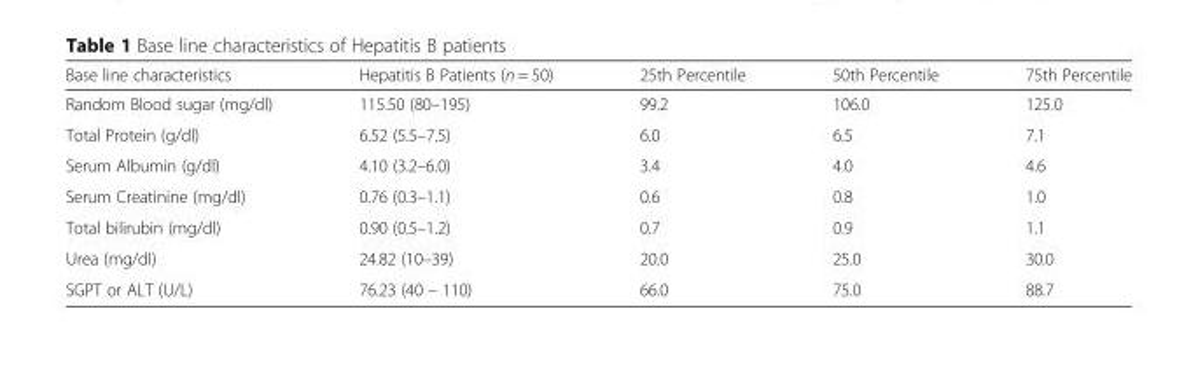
<table><thead><tr><td>Base line characteristics</td><td>Hepatitis B Patients (n = 50)</td><td>25th Percentile</td><td>50th Percentile</td><td>75th Percentile</td></tr></thead><tbody><tr><td>Random Blood sugar (mg/dl)</td><td>115.50 (80–195)</td><td>99.2</td><td>106.0</td><td>125.0</td></tr><tr><td>Total Protein (g/dl)</td><td>6.52 (5.5–7.5)</td><td>6.0</td><td>6.5</td><td>7.1</td></tr><tr><td>Serum Albumin (g/dl)</td><td>4.10 (3.2–6.0)</td><td>3.4</td><td>4.0</td><td>4.6</td></tr><tr><td>Serum Creatinine (mg/dl)</td><td>0.76 (0.3–1.1)</td><td>0.6</td><td>0.8</td><td>1.0</td></tr><tr><td>Total bilirubin (mg/dl)</td><td>0.90 (0.5–1.2)</td><td>0.7</td><td>0.9</td><td>1.1</td></tr><tr><td>Urea (mg/dl)</td><td>24.82 (10–39)</td><td>20.0</td><td>25.0</td><td>30.0</td></tr><tr><td>SGPT or ALT (U/L)</td><td>76.23 (40 – 110)</td><td>66.0</td><td>75.0</td><td>88.7</td></tr></tbody></table>